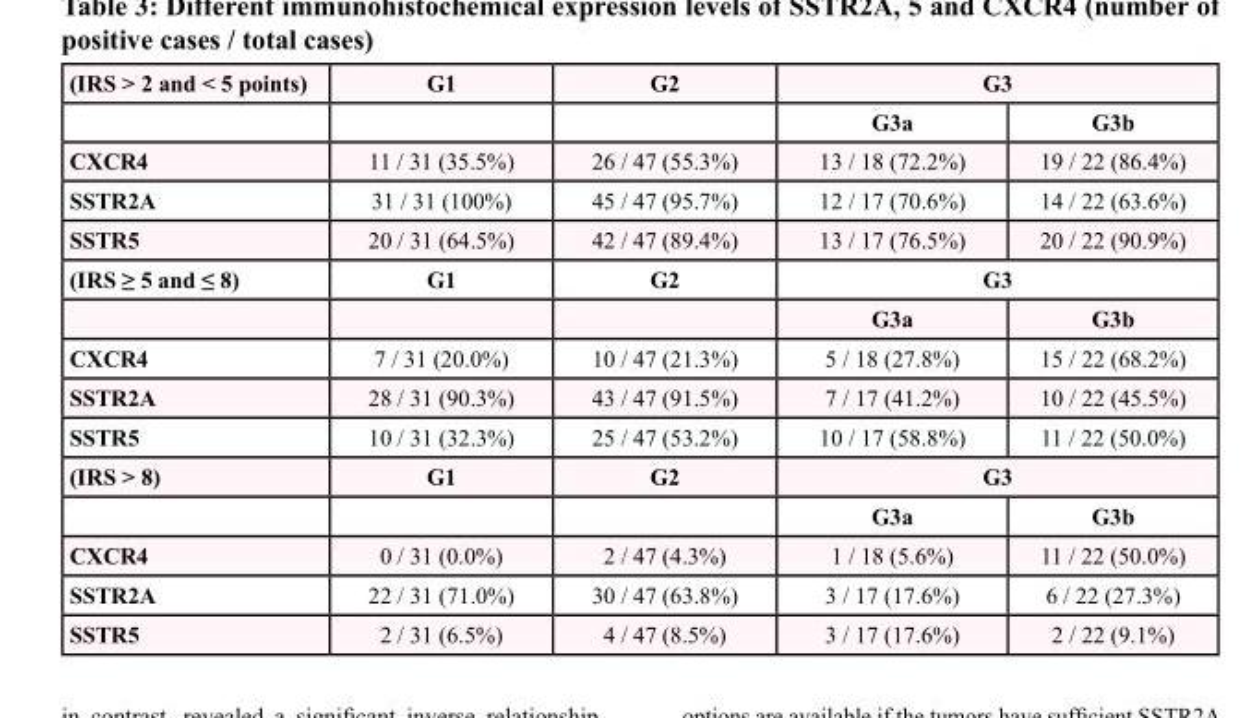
<table><tbody><tr><td rowspan="2">(IRS &gt; 2 and &lt; 5 points)</td><td>G1</td><td>G2</td><td colspan="2">G3</td></tr><tr><td></td><td></td><td>G3a</td><td>G3b</td></tr><tr><td>CXCR4</td><td>11 / 31 (35.5%)</td><td>26 / 47 (55.3%)</td><td>13 / 18 (72.2%)</td><td>19 / 22 (86.4%)</td></tr><tr><td>SSTR2A</td><td>31 / 31 (100%)</td><td>45 / 47 (95.7%)</td><td>12 / 17 (70.6%)</td><td>14 / 22 (63.6%)</td></tr><tr><td>SSTR5</td><td>20 / 31 (64.5%)</td><td>42 / 47 (89.4%)</td><td>13 / 17 (76.5%)</td><td>20 / 22 (90.9%)</td></tr><tr><td rowspan="2">(IRS ≥ 5 and ≤ 8)</td><td>G1</td><td>G2</td><td colspan="2">G3</td></tr><tr><td></td><td></td><td>G3a</td><td>G3b</td></tr><tr><td>CXCR4</td><td>7 / 31 (20.0%)</td><td>10 / 47 (21.3%)</td><td>5 / 18 (27.8%)</td><td>15 / 22 (68.2%)</td></tr><tr><td>SSTR2A</td><td>28 / 31 (90.3%)</td><td>43 / 47 (91.5%)</td><td>7 / 17 (41.2%)</td><td>10 / 22 (45.5%)</td></tr><tr><td>SSTR5</td><td>10 / 31 (32.3%)</td><td>25 / 47 (53.2%)</td><td>10 / 17 (58.8%)</td><td>11 / 22 (50.0%)</td></tr><tr><td rowspan="2">(IRS &gt; 8)</td><td>G1</td><td>G2</td><td colspan="2">G3</td></tr><tr><td></td><td></td><td>G3a</td><td>G3b</td></tr><tr><td>CXCR4</td><td>0 / 31 (0.0%)</td><td>2 / 47 (4.3%)</td><td>1 / 18 (5.6%)</td><td>11 / 22 (50.0%)</td></tr><tr><td>SSTR2A</td><td>22 / 31 (71.0%)</td><td>30 / 47 (63.8%)</td><td>3 / 17 (17.6%)</td><td>6 / 22 (27.3%)</td></tr><tr><td>SSTR5</td><td>2 / 31 (6.5%)</td><td>4 / 47 (8.5%)</td><td>3 / 17 (17.6%)</td><td>2 / 22 (9.1%)</td></tr></tbody></table>